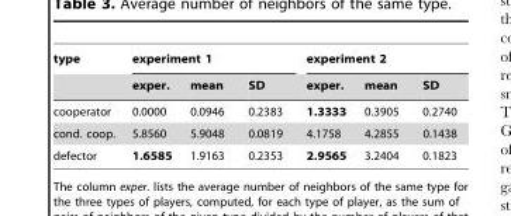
<table><thead><tr><td rowspan="2">type</td><td colspan="3">experiment 1</td><td colspan="3">experiment 2</td></tr><tr><td>exper.</td><td>mean</td><td>SD</td><td>exper.</td><td>mean</td><td>SD</td></tr></thead><tbody><tr><td>cooperator</td><td>0.0000</td><td>0.0946</td><td>0.2383</td><td>1.3333</td><td>0.3905</td><td>0.2740</td></tr><tr><td>cond. coop.</td><td>5.8560</td><td>5.9048</td><td>0.0819</td><td>4.1758</td><td>4.2855</td><td>0.1438</td></tr><tr><td>defector</td><td>1.6585</td><td>1.9163</td><td>0.2353</td><td>2.9565</td><td>3.2404</td><td>0.1823</td></tr></tbody></table>